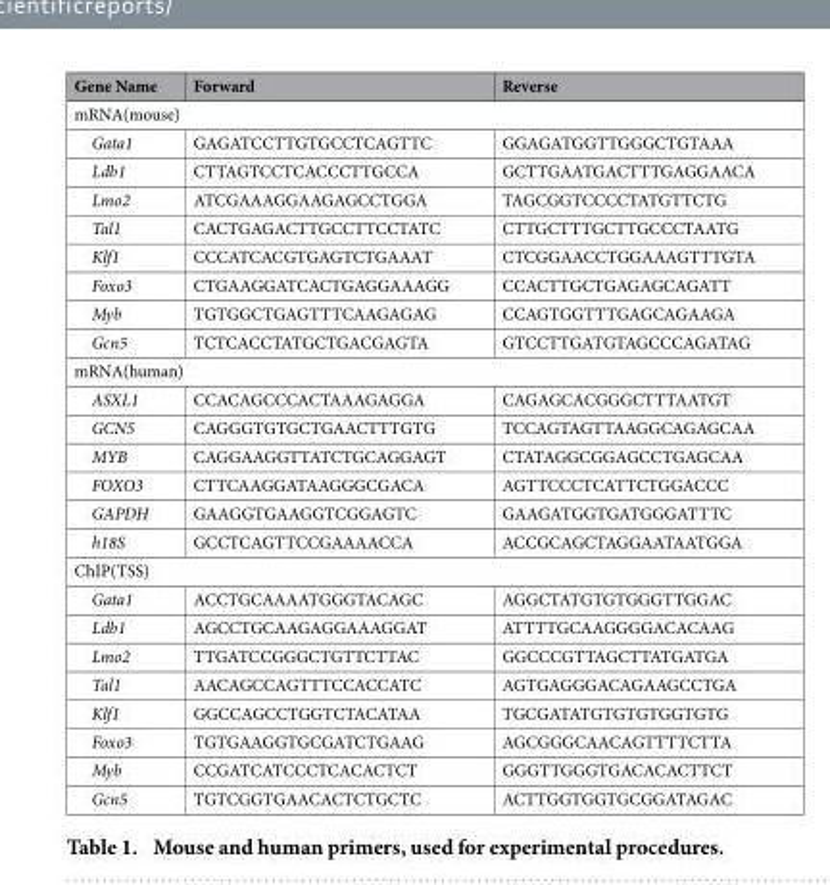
<table><thead><tr><td>Gene Name</td><td>Forward</td><td>Reverse</td></tr></thead><tbody><tr><td colspan="3">mRNA(mouse)</td></tr><tr><td>Gata1</td><td>GAGATCCTTGTGCCTCAGTTC</td><td>GGAGATGGTTGGGCTGTAAA</td></tr><tr><td>Ldb1</td><td>CTTAGTCCTCACCCTTGCCA</td><td>GCTTGAATGACTTTGAGGAACA</td></tr><tr><td>Lmo2</td><td>ATCGAAAGGAAGAGCCTGGA</td><td>TAGCGGTCCCCTATGTTCTG</td></tr><tr><td>Tal1</td><td>CACTGAGACTTGCCTTCCTATC</td><td>CTTGCTTTGCTTGCCCTAATG</td></tr><tr><td>Klf1</td><td>CCCATCACGTGAGTCTGAAAT</td><td>CTCGGAACCTGGAAAGTTTGTA</td></tr><tr><td>Foxo3</td><td>CTGAAGGATCACTGAGGAAAGG</td><td>CCACTTGCTGAGAGCAGATT</td></tr><tr><td>Myb</td><td>TGTGGCTGAGTTTCAAGAGAG</td><td>CCAGTGGTTTGAGCAGAAGA</td></tr><tr><td>Gcn5</td><td>TCTCACCTATGCTGACGAGTA</td><td>GTCCTTGATGTAGCCCAGATAG</td></tr><tr><td colspan="3">mRNA(human)</td></tr><tr><td>ASXL1</td><td>CCACAGCCCACTAAAGAGGA</td><td>CAGAGCACGGGCTTTAATGT</td></tr><tr><td>GCN5</td><td>CAGGGTGTGCTGAACTTTGTG</td><td>TCCAGTAGTTAAGGCAGAGCAA</td></tr><tr><td>MYB</td><td>CAGGAAGGTTATCTGCAGGAGT</td><td>CTATAGGCGGAGCCTGAGCAA</td></tr><tr><td>FOXO3</td><td>CTTCAAGGATAAGGGCGACA</td><td>AGTTCCCTCATTCTGGACCC</td></tr><tr><td>GAPDH</td><td>GAAGGTGAAGGTCGGAGTC</td><td>GAAGATGGTGATGGGATTTC</td></tr><tr><td>h18S</td><td>GCCTCAGTTCCGAAAACCA</td><td>ACCGCAGCTAGGAATAATGGA</td></tr><tr><td colspan="3">ChIP(TSS)</td></tr><tr><td>Gata1</td><td>ACCTGCAAAATGGGTACAGC</td><td>AGGCTATGTGTGGGTTGGAC</td></tr><tr><td>Ldb1</td><td>AGCCTGCAAGAGGAAAGGAT</td><td>ATTTTGCAAGGGGACACAAG</td></tr><tr><td>Lmo2</td><td>TTGATCCGGGCTGTTCTTAC</td><td>GGCCCGTTAGCTTATGATGA</td></tr><tr><td>Tal1</td><td>AACAGCCAGTTTCCACCATC</td><td>AGTGAGGGACAGAAGCCTGA</td></tr><tr><td>Klf1</td><td>GGCCAGCCTGGTCTACATAA</td><td>TGCGATATGTGTGTGGTGTG</td></tr><tr><td>Foxo3</td><td>TGTGAAGGTGCGATCTGAAG</td><td>AGCGGGCAACAGTTTTCTTA</td></tr><tr><td>Myb</td><td>CCGATCATCCCTCACACTCT</td><td>GGGTTGGGTGACACACTTCT</td></tr><tr><td>Gcn5</td><td>TGTCGGTGAACACTCTGCTC</td><td>ACTTGGTGGTGCGGATAGAC</td></tr></tbody></table>